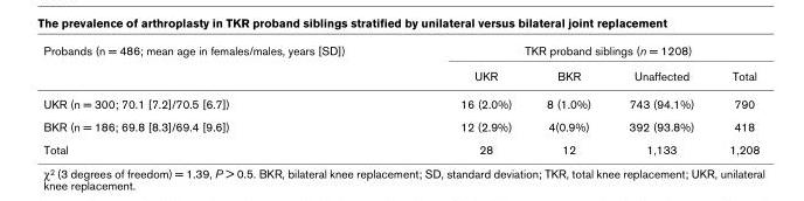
<table><thead><tr><td rowspan="2">Probands (n = 486; mean age in females/males, years [SD])</td><td colspan="4">TKR proband siblings (n = 1208)</td></tr><tr><td>UKR</td><td>BKR</td><td>Unaffected</td><td>Total</td></tr></thead><tbody><tr><td>UKR (n = 300; 70.1 [7.2]/70.5 [6.7])</td><td>16 (2.0%)</td><td>8 (1.0%)</td><td>743 (94.1%)</td><td>790</td></tr><tr><td>BKR (n = 186; 69.8 [8.3]/69.4 [9.6])</td><td>12 (2.9%)</td><td>4(0.9%)</td><td>392 (93.8%)</td><td>418</td></tr><tr><td>Total</td><td>28</td><td>12</td><td>1,133</td><td>1,208</td></tr></tbody></table>